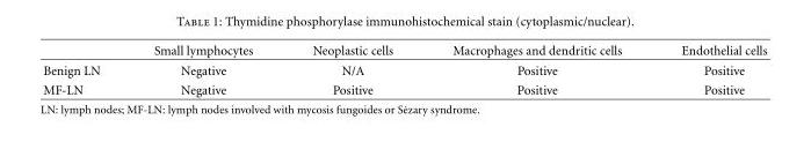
<table><thead><tr><td></td><td>Small lymphocytes</td><td>Neoplastic cells</td><td>Macrophages and dendritic cells</td><td>Endothelial cells</td></tr></thead><tbody><tr><td>Benign LN</td><td>Negative</td><td>N/A</td><td>Positive</td><td>Positive</td></tr><tr><td>MF-LN</td><td>Negative</td><td>Positive</td><td>Positive</td><td>Positive</td></tr></tbody></table>